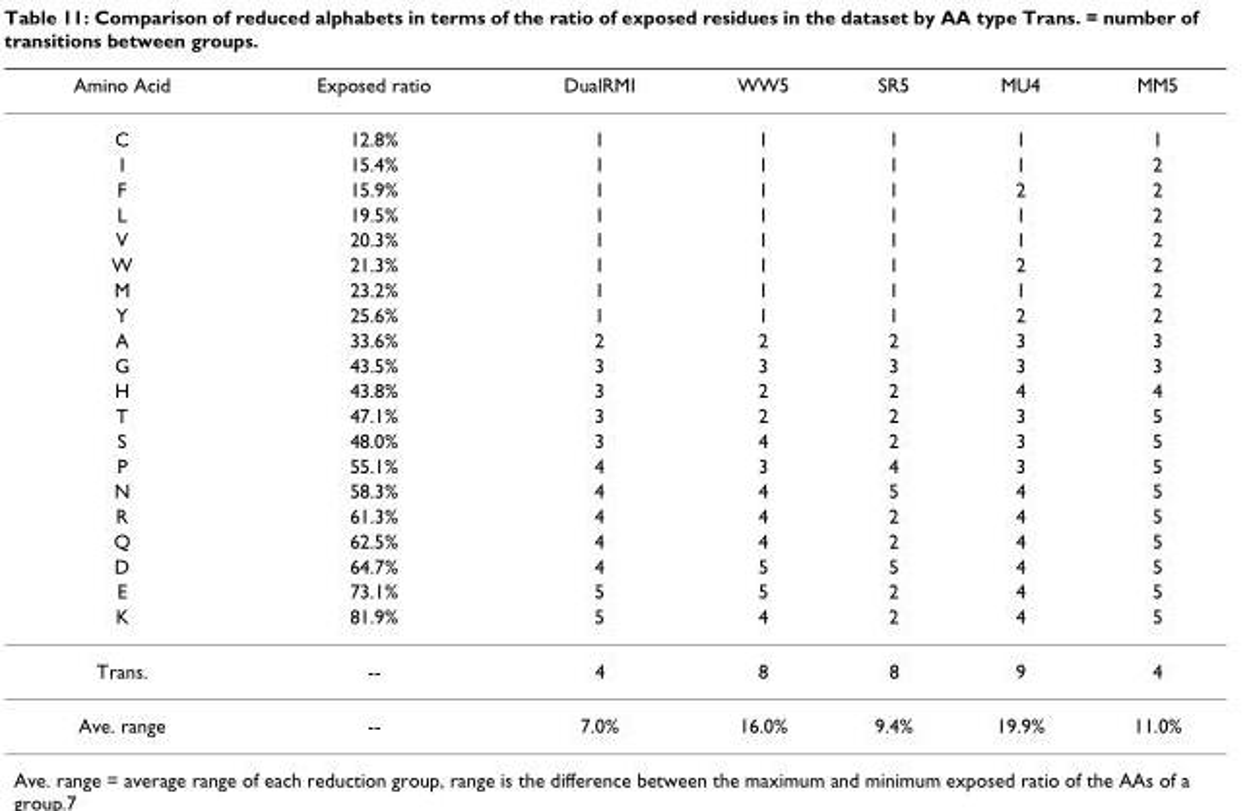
<table><thead><tr><td>Amino Acid</td><td>Exposed ratio</td><td>DualRMI</td><td>WW5</td><td>SR5</td><td>MU4</td><td>MM5</td></tr></thead><tbody><tr><td>C</td><td>12.8%</td><td>1</td><td>1</td><td>1</td><td>1</td><td>1</td></tr><tr><td>I</td><td>15.4%</td><td>1</td><td>1</td><td>1</td><td>1</td><td>2</td></tr><tr><td>F</td><td>15.9%</td><td>1</td><td>1</td><td>1</td><td>2</td><td>2</td></tr><tr><td>L</td><td>19.5%</td><td>1</td><td>1</td><td>1</td><td>1</td><td>2</td></tr><tr><td>V</td><td>20.3%</td><td>1</td><td>1</td><td>1</td><td>1</td><td>2</td></tr><tr><td>W</td><td>21.3%</td><td>1</td><td>1</td><td>1</td><td>2</td><td>2</td></tr><tr><td>M</td><td>23.2%</td><td>1</td><td>1</td><td>1</td><td>1</td><td>2</td></tr><tr><td>Y</td><td>25.6%</td><td>1</td><td>1</td><td>1</td><td>2</td><td>2</td></tr><tr><td>A</td><td>33.6%</td><td>2</td><td>2</td><td>2</td><td>3</td><td>3</td></tr><tr><td>G</td><td>43.5%</td><td>3</td><td>3</td><td>3</td><td>3</td><td>3</td></tr><tr><td>H</td><td>43.8%</td><td>3</td><td>2</td><td>2</td><td>4</td><td>4</td></tr><tr><td>T</td><td>47.1%</td><td>3</td><td>2</td><td>2</td><td>3</td><td>5</td></tr><tr><td>S</td><td>48.0%</td><td>3</td><td>4</td><td>2</td><td>3</td><td>5</td></tr><tr><td>P</td><td>55.1%</td><td>4</td><td>3</td><td>4</td><td>3</td><td>5</td></tr><tr><td>N</td><td>58.3%</td><td>4</td><td>4</td><td>5</td><td>4</td><td>5</td></tr><tr><td>R</td><td>61.3%</td><td>4</td><td>4</td><td>2</td><td>4</td><td>5</td></tr><tr><td>Q</td><td>62.5%</td><td>4</td><td>4</td><td>2</td><td>4</td><td>5</td></tr><tr><td>D</td><td>64.7%</td><td>4</td><td>5</td><td>5</td><td>4</td><td>5</td></tr><tr><td>E</td><td>73.1%</td><td>5</td><td>5</td><td>2</td><td>4</td><td>5</td></tr><tr><td>K</td><td>81.9%</td><td>5</td><td>4</td><td>2</td><td>4</td><td>5</td></tr><tr><td>Trans.</td><td>--</td><td>4</td><td>8</td><td>8</td><td>9</td><td>4</td></tr><tr><td>Ave. range</td><td>--</td><td>7.0%</td><td>16.0%</td><td>9.4%</td><td>19.9%</td><td>11.0%</td></tr></tbody></table>